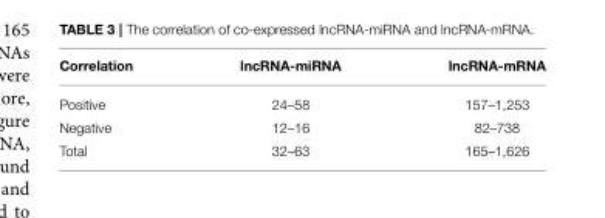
<table><thead><tr><td>Correlation</td><td>lncRNA-miRNA</td><td>lncRNA-mRNA</td></tr></thead><tbody><tr><td>Positive</td><td>24–58</td><td>157–1,253</td></tr><tr><td>Negative</td><td>12–16</td><td>82–738</td></tr><tr><td>Total</td><td>32–63</td><td>165–1,626</td></tr></tbody></table>